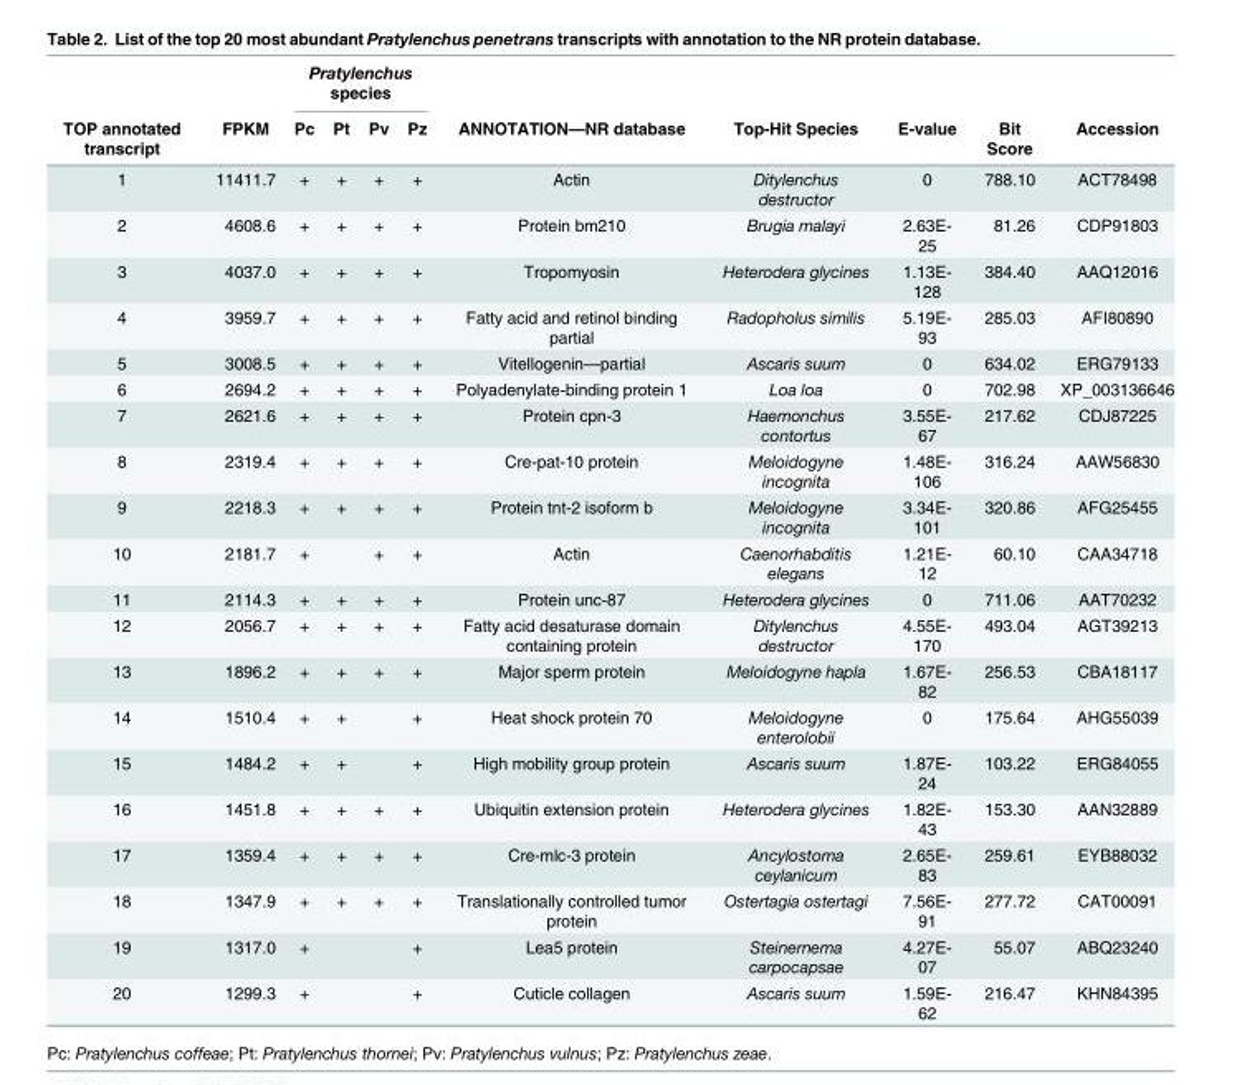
<table><thead><tr><td rowspan="2">TOP annotated transcript</td><td rowspan="2">FPKM</td><td colspan="4">Pratylenchus species</td><td rowspan="2">ANNOTATION—NR database</td><td rowspan="2">Top-Hit Species</td><td rowspan="2">E-value</td><td rowspan="2">Bit Score</td><td rowspan="2">Accession</td></tr><tr><td>Pc</td><td>Pt</td><td>Pv</td><td>Pz</td></tr></thead><tbody><tr><td>1</td><td>11411.7</td><td>+</td><td>+</td><td>+</td><td>+</td><td>Actin</td><td>Ditylenchus destructor</td><td>0</td><td>788.10</td><td>ACT78498</td></tr><tr><td>2</td><td>4608.6</td><td>+</td><td>+</td><td>+</td><td>+</td><td>Protein bm210</td><td>Brugia malayi</td><td>2.63E- 25</td><td>81.26</td><td>CDP91803</td></tr><tr><td>3</td><td>4037.0</td><td>+</td><td>+</td><td>+</td><td>+</td><td>Tropomyosin</td><td>Heterodera glycines</td><td>1.13E- 128</td><td>384.40</td><td>AAQ12016</td></tr><tr><td>4</td><td>3959.7</td><td>+</td><td>+</td><td>+</td><td>+</td><td>Fatty acid and retinol binding partial</td><td>Radopholus similis</td><td>5.19E- 93</td><td>285.03</td><td>AFI80890</td></tr><tr><td>5</td><td>3008.5</td><td>+</td><td>+</td><td>+</td><td>+</td><td>Vitellogenin—partial</td><td>Ascaris suum</td><td>0</td><td>634.02</td><td>ERG79133</td></tr><tr><td>6</td><td>2694.2</td><td>+</td><td>+</td><td>+</td><td>+</td><td>Polyadenylate-binding protein 1</td><td>Loa loa</td><td>0</td><td>702.98</td><td>XP_003136646</td></tr><tr><td>7</td><td>2621.6</td><td>+</td><td>+</td><td>+</td><td>+</td><td>Protein cpn-3</td><td>Haemonchus contortus</td><td>3.55E- 67</td><td>217.62</td><td>CDJ87225</td></tr><tr><td>8</td><td>2319.4</td><td>+</td><td>+</td><td>+</td><td>+</td><td>Cre-pat-10 protein</td><td>Meloidogyne incognita</td><td>1.48E- 106</td><td>316.24</td><td>AAW56830</td></tr><tr><td>9</td><td>2218.3</td><td>+</td><td>+</td><td>+</td><td>+</td><td>Protein tnt-2 isoform b</td><td>Meloidogyne incognita</td><td>3.34E- 101</td><td>320.86</td><td>AFG25455</td></tr><tr><td>10</td><td>2181.7</td><td>+</td><td></td><td>+</td><td>+</td><td>Actin</td><td>Caenorhabditis elegans</td><td>1.21E- 12</td><td>60.10</td><td>CAA34718</td></tr><tr><td>11</td><td>2114.3</td><td>+</td><td>+</td><td>+</td><td>+</td><td>Protein unc-87</td><td>Heterodera glycines</td><td>0</td><td>711.06</td><td>AAT70232</td></tr><tr><td>12</td><td>2056.7</td><td>+</td><td>+</td><td>+</td><td>+</td><td>Fatty acid desaturase domain containing protein</td><td>Ditylenchus destructor</td><td>4.55E- 170</td><td>493.04</td><td>AGT39213</td></tr><tr><td>13</td><td>1896.2</td><td>+</td><td>+</td><td>+</td><td>+</td><td>Major sperm protein</td><td>Meloidogyne hapla</td><td>1.67E- 82</td><td>256.53</td><td>CBA18117</td></tr><tr><td>14</td><td>1510.4</td><td>+</td><td>+</td><td></td><td>+</td><td>Heat shock protein 70</td><td>Meloidogyne enterolobii</td><td>0</td><td>175.64</td><td>AHG55039</td></tr><tr><td>15</td><td>1484.2</td><td>+</td><td>+</td><td></td><td>+</td><td>High mobility group protein</td><td>Ascaris suum</td><td>1.87E- 24</td><td>103.22</td><td>ERG84055</td></tr><tr><td>16</td><td>1451.8</td><td>+</td><td>+</td><td>+</td><td>+</td><td>Ubiquitin extension protein</td><td>Heterodera glycines</td><td>1.82E- 43</td><td>153.30</td><td>AAN32889</td></tr><tr><td>17</td><td>1359.4</td><td>+</td><td>+</td><td>+</td><td>+</td><td>Cre-mlc-3 protein</td><td>Ancylostoma ceylanicum</td><td>2.65E- 83</td><td>259.61</td><td>EYB88032</td></tr><tr><td>18</td><td>1347.9</td><td>+</td><td>+</td><td>+</td><td>+</td><td>Translationally controlled tumor protein</td><td>Ostertagia ostertagi</td><td>7.56E- 91</td><td>277.72</td><td>CAT00091</td></tr><tr><td>19</td><td>1317.0</td><td>+</td><td></td><td></td><td>+</td><td>Lea5 protein</td><td>Steinernema carpocapsae</td><td>4.27E- 07</td><td>55.07</td><td>ABQ23240</td></tr><tr><td>20</td><td>1299.3</td><td>+</td><td></td><td></td><td>+</td><td>Cuticle collagen</td><td>Ascaris suum</td><td>1.59E- 62</td><td>216.47</td><td>KHN84395</td></tr></tbody></table>